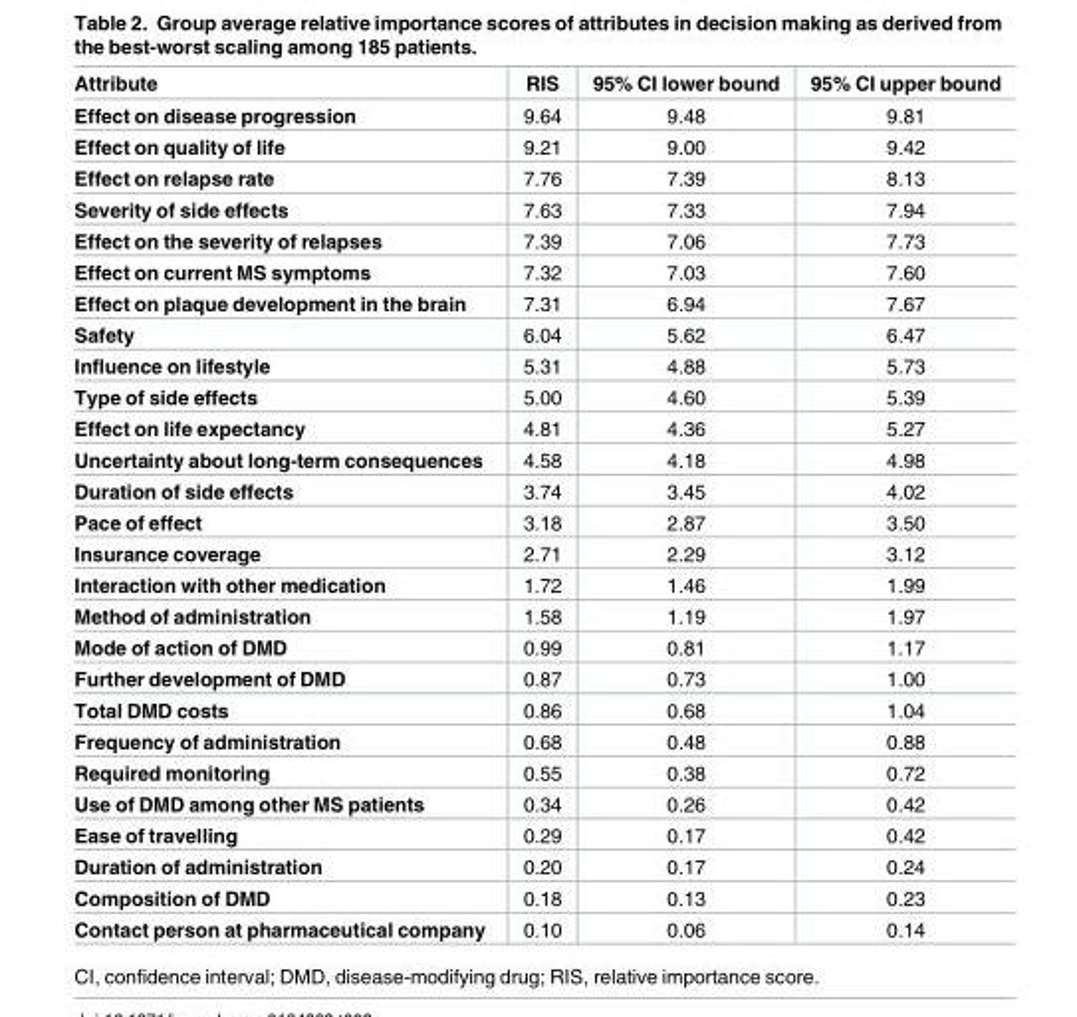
<table><thead><tr><td>Attribute</td><td>RIS</td><td>95% CI lower bound</td><td>95% CI upper bound</td></tr></thead><tbody><tr><td>Effect on disease progression</td><td>9.64</td><td>9.48</td><td>9.81</td></tr><tr><td>Effect on quality of life</td><td>9.21</td><td>9.00</td><td>9.42</td></tr><tr><td>Effect on relapse rate</td><td>7.76</td><td>7.39</td><td>8.13</td></tr><tr><td>Severity of side effects</td><td>7.63</td><td>7.33</td><td>7.94</td></tr><tr><td>Effect on the severity of relapses</td><td>7.39</td><td>7.06</td><td>7.73</td></tr><tr><td>Effect on current MS symptoms</td><td>7.32</td><td>7.03</td><td>7.60</td></tr><tr><td>Effect on plaque development in the brain</td><td>7.31</td><td>6.94</td><td>7.67</td></tr><tr><td>Safety</td><td>6.04</td><td>5.62</td><td>6.47</td></tr><tr><td>Influence on lifestyle</td><td>5.31</td><td>4.88</td><td>5.73</td></tr><tr><td>Type of side effects</td><td>5.00</td><td>4.60</td><td>5.39</td></tr><tr><td>Effect on life expectancy</td><td>4.81</td><td>4.36</td><td>5.27</td></tr><tr><td>Uncertainty about long-term consequences</td><td>4.58</td><td>4.18</td><td>4.98</td></tr><tr><td>Duration of side effects</td><td>3.74</td><td>3.45</td><td>4.02</td></tr><tr><td>Pace of effect</td><td>3.18</td><td>2.87</td><td>3.50</td></tr><tr><td>Insurance coverage</td><td>2.71</td><td>2.29</td><td>3.12</td></tr><tr><td>Interaction with other medication</td><td>1.72</td><td>1.46</td><td>1.99</td></tr><tr><td>Method of administration</td><td>1.58</td><td>1.19</td><td>1.97</td></tr><tr><td>Mode of action of DMD</td><td>0.99</td><td>0.81</td><td>1.17</td></tr><tr><td>Further development of DMD</td><td>0.87</td><td>0.73</td><td>1.00</td></tr><tr><td>Total DMD costs</td><td>0.86</td><td>0.68</td><td>1.04</td></tr><tr><td>Frequency of administration</td><td>0.68</td><td>0.48</td><td>0.88</td></tr><tr><td>Required monitoring</td><td>0.55</td><td>0.38</td><td>0.72</td></tr><tr><td>Use of DMD among other MS patients</td><td>0.34</td><td>0.26</td><td>0.42</td></tr><tr><td>Ease of travelling</td><td>0.29</td><td>0.17</td><td>0.42</td></tr><tr><td>Duration of administration</td><td>0.20</td><td>0.17</td><td>0.24</td></tr><tr><td>Composition of DMD</td><td>0.18</td><td>0.13</td><td>0.23</td></tr><tr><td>Contact person at pharmaceutical company</td><td>0.10</td><td>0.06</td><td>0.14</td></tr></tbody></table>